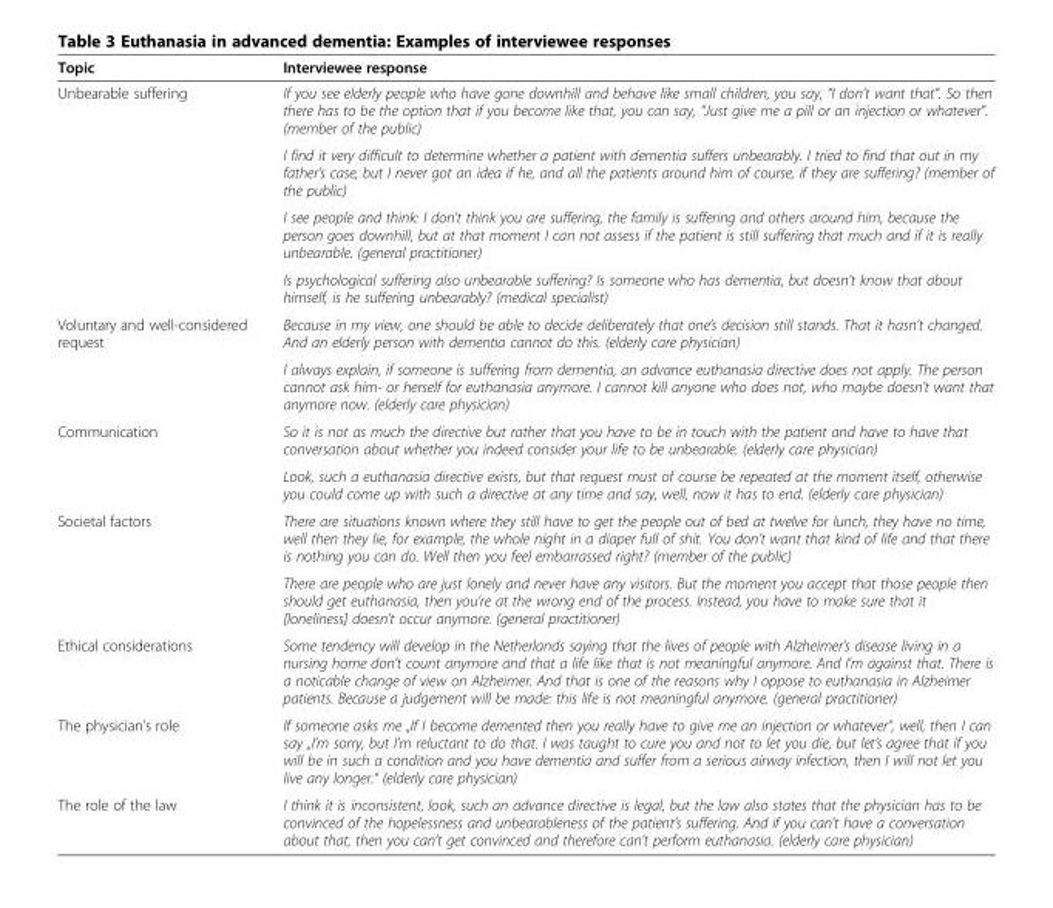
<table><thead><tr><td>Topic</td><td>Interviewee response</td></tr></thead><tbody><tr><td rowspan="4">Unbearable suffering</td><td>If you see elderly people who have gone downhill and behave like small children, you say, “I don’t want that”. So then there has to be the option that if you become like that, you can say, “Just give me a pill or an injection or whatever”. (member of the public)</td></tr><tr><td>I find it very difficult to determine whether a patient with dementia suffers unbearably. I tried to find that out in my father’s case, but I never got an idea if he, and all the patients around him of course, if they are suffering? (member of the public)</td></tr><tr><td>I see people and think: I don’t think you are suffering, the family is suffering and others around him, because the person goes downhill, but at that moment I can not assess if the patient is still suffering that much and if it is really unbearable. (general practitioner)</td></tr><tr><td>Is psychological suffering also unbearable suffering? Is someone who has dementia, but doesn’t know that about himself, is he suffering unbearably? (medical specialist)</td></tr><tr><td rowspan="2">Voluntary and well-considered request</td><td>Because in my view, one should be able to decide deliberately that one’s decision still stands. That it hasn’t changed. And an elderly person with dementia cannot do this. (elderly care physician)</td></tr><tr><td>I always explain, if someone is suffering from dementia, an advance euthanasia directive does not apply. The person cannot ask him- or herself for euthanasia anymore. I cannot kill anyone who does not, who maybe doesn’t want that anymore now. (elderly care physician)</td></tr><tr><td rowspan="2">Communication</td><td>So it is not as much the directive but rather that you have to be in touch with the patient and have to have that conversation about whether you indeed consider your life to be unbearable. (elderly care physician)</td></tr><tr><td>Look, such a euthanasia directive exists, but that request must of course be repeated at the moment itself, otherwise you could come up with such a directive at any time and say, well, now it has to end. (elderly care physician)</td></tr><tr><td rowspan="2">Societal factors</td><td>There are situations known where they still have to get the people out of bed at twelve for lunch, they have no time, well then they lie, for example, the whole night in a diaper full of shit. You don’t want that kind of life and that there is nothing you can do. Well then you feel embarrassed right? (member of the public)</td></tr><tr><td>There are people who are just lonely and never have any visitors. But the moment you accept that those people then should get euthanasia, then you’re at the wrong end of the process. Instead, you have to make sure that it [loneliness] doesn’t occur anymore. (general practitioner)</td></tr><tr><td>Ethical considerations</td><td>Some tendency will develop in the Netherlands saying that the lives of people with Alzheimer’s disease living in a nursing home don’t count anymore and that a life like that is not meaningful anymore. And I’m against that. There is a noticable change of view on Alzheimer. And that is one of the reasons why I oppose to euthanasia in Alzheimer patients. Because a judgement will be made: this life is not meaningful anymore. (general practitioner)</td></tr><tr><td>The physician’s role</td><td>If someone asks me „If I become demented then you really have to give me an injection or whatever“, well, then I can say „I’m sorry, but I’m reluctant to do that. I was taught to cure you and not to let you die, but let’s agree that if you will be in such a condition and you have dementia and suffer from a serious airway infection, then I will not let you live any longer.“ (elderly care physician)</td></tr><tr><td>The role of the law</td><td>I think it is inconsistent, look, such an advance directive is legal, but the law also states that the physician has to be convinced of the hopelessness and unbearableness of the patient’s suffering. And if you can’t have a conversation about that, then you can’t get convinced and therefore can’t perform euthanasia. (elderly care physician)</td></tr></tbody></table>